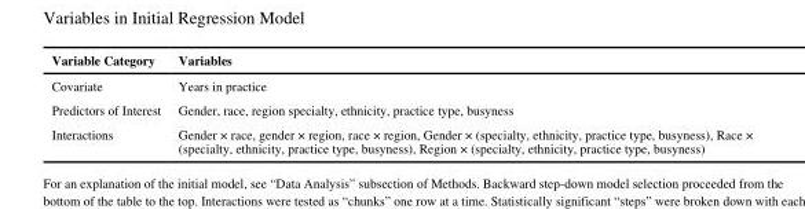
<table><thead><tr><td>Variable Category</td><td>Variables</td></tr></thead><tbody><tr><td>Covariate</td><td>Years in practice</td></tr><tr><td>Predictors of Interest</td><td>Gender, race, region specialty, ethnicity, practice type, busyness</td></tr><tr><td>Interactions</td><td>Gender × race, gender × region, race × region, Gender × (specialty, ethnicity, practice type, busyness), Race × (specialty, ethnicity, practice type, busyness), Region × (specialty, ethnicity, practice type, busyness)</td></tr></tbody></table>